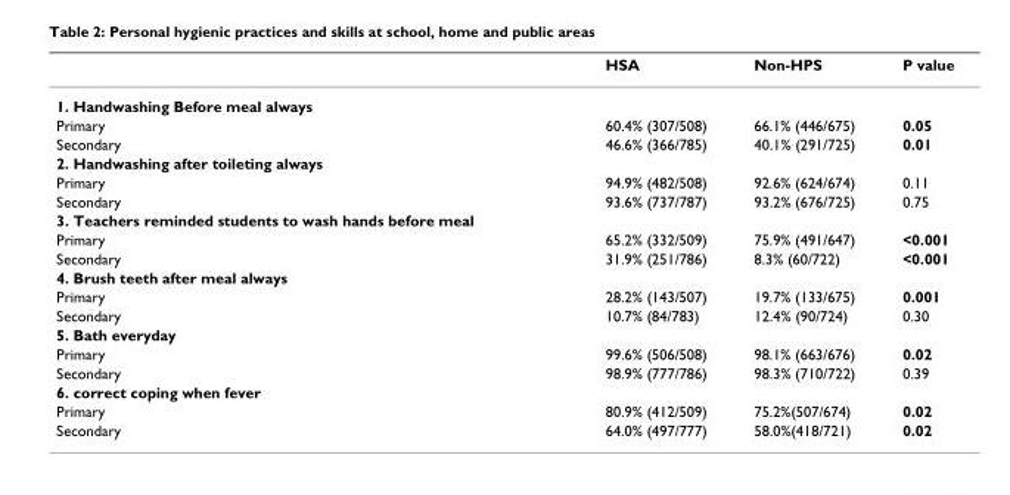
<table><thead><tr><td></td><td>HSA</td><td>Non-HPS</td><td>P value</td></tr></thead><tbody><tr><td colspan="4">1. Handwashing Before meal always</td></tr><tr><td>Primary</td><td>60.4% (307/508)</td><td>66.1% (446/675)</td><td>0.05</td></tr><tr><td>Secondary</td><td>46.6% (366/785)</td><td>40.1% (291/725)</td><td>0.01</td></tr><tr><td colspan="4">2. Handwashing after toileting always</td></tr><tr><td>Primary</td><td>94.9% (482/508)</td><td>92.6% (624/674)</td><td>0.11</td></tr><tr><td>Secondary</td><td>93.6% (737/787)</td><td>93.2% (676/725)</td><td>0.75</td></tr><tr><td colspan="4">3. Teachers reminded students to wash hands before meal</td></tr><tr><td>Primary</td><td>65.2% (332/509)</td><td>75.9% (491/647)</td><td>&lt;0.001</td></tr><tr><td>Secondary</td><td>31.9% (251/786)</td><td>8.3% (60/722)</td><td>&lt;0.001</td></tr><tr><td colspan="4">4. Brush teeth after meal always</td></tr><tr><td>Primary</td><td>28.2% (143/507)</td><td>19.7% (133/675)</td><td>0.001</td></tr><tr><td>Secondary</td><td>10.7% (84/783)</td><td>12.4% (90/724)</td><td>0.30</td></tr><tr><td colspan="4">5. Bath everyday</td></tr><tr><td>Primary</td><td>99.6% (506/508)</td><td>98.1% (663/676)</td><td>0.02</td></tr><tr><td>Secondary</td><td>98.9% (777/786)</td><td>98.3% (710/722)</td><td>0.39</td></tr><tr><td colspan="4">6. correct coping when fever</td></tr><tr><td>Primary</td><td>80.9% (412/509)</td><td>75.2%(507/674)</td><td>0.02</td></tr><tr><td>Secondary</td><td>64.0% (497/777)</td><td>58.0%(418/721)</td><td>0.02</td></tr></tbody></table>